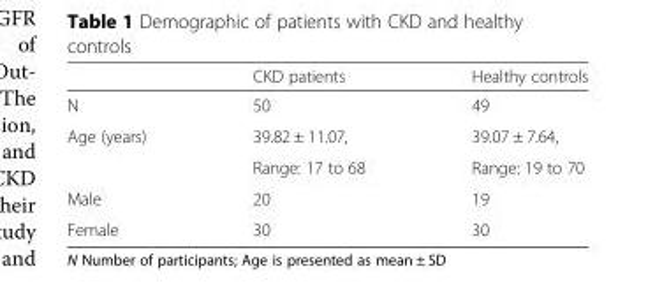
<table><thead><tr><td></td><td>CKD patients</td><td>Healthy controls</td></tr></thead><tbody><tr><td>N</td><td>50</td><td>49</td></tr><tr><td rowspan="2">Age (years)</td><td>39.82 ± 11.07,</td><td>39.07 ± 7.64,</td></tr><tr><td>Range: 17 to 68</td><td>Range: 19 to 70</td></tr><tr><td>Male</td><td>20</td><td>19</td></tr><tr><td>Female</td><td>30</td><td>30</td></tr></tbody></table>